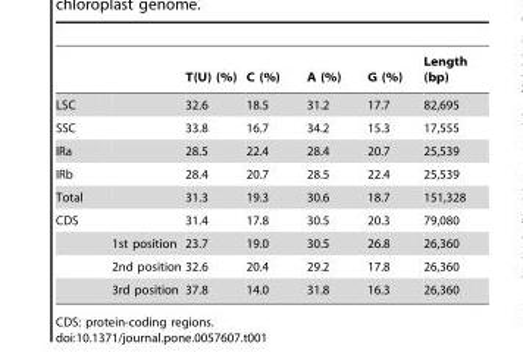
<table><thead><tr><td></td><td></td><td>T(U) (%)</td><td>C (%)</td><td>A (%)</td><td>G (%)</td><td>Length (bp)</td></tr></thead><tbody><tr><td>LSC</td><td></td><td>32.6</td><td>18.5</td><td>31.2</td><td>17.7</td><td>82,695</td></tr><tr><td>SSC</td><td></td><td>33.8</td><td>16.7</td><td>34.2</td><td>15.3</td><td>17,555</td></tr><tr><td>IRa</td><td></td><td>28.5</td><td>22.4</td><td>28.4</td><td>20.7</td><td>25,539</td></tr><tr><td>IRb</td><td></td><td>28.4</td><td>20.7</td><td>28.5</td><td>22.4</td><td>25,539</td></tr><tr><td>Total</td><td></td><td>31.3</td><td>19.3</td><td>30.6</td><td>18.7</td><td>151,328</td></tr><tr><td rowspan="4">CDS</td><td></td><td>31.4</td><td>17.8</td><td>30.5</td><td>20.3</td><td>79,080</td></tr><tr><td>1st position</td><td>23.7</td><td>19.0</td><td>30.5</td><td>26.8</td><td>26,360</td></tr><tr><td>2nd position</td><td>32.6</td><td>20.4</td><td>29.2</td><td>17.8</td><td>26,360</td></tr><tr><td>3rd position</td><td>37.8</td><td>14.0</td><td>31.8</td><td>16.3</td><td>26,360</td></tr></tbody></table>